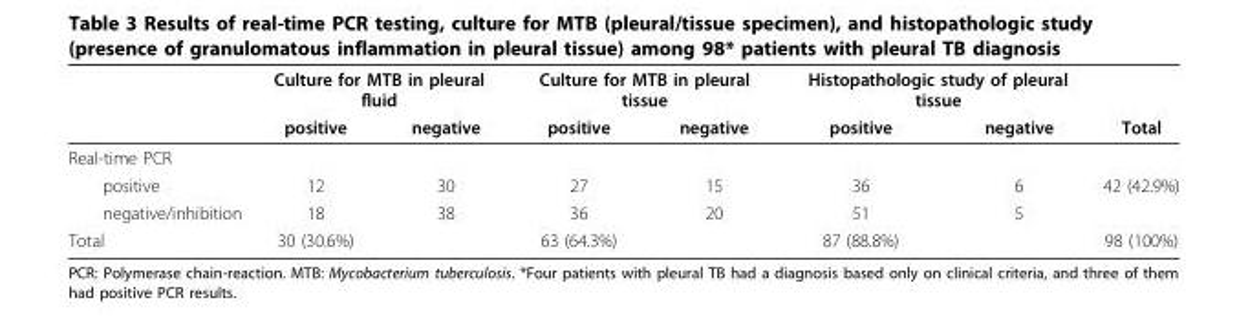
<table><thead><tr><td rowspan="2"></td><td colspan="2">Culture for MTB in pleural fluid</td><td colspan="2">Culture for MTB in pleural tissue</td><td colspan="2">Histopathologic study of pleural tissue</td><td rowspan="2">Total</td></tr><tr><td>positive</td><td>negative</td><td>positive</td><td>negative</td><td>positive</td><td>negative</td></tr></thead><tbody><tr><td colspan="8">Real-time PCR</td></tr><tr><td>positive</td><td>12</td><td>30</td><td>27</td><td>15</td><td>36</td><td>6</td><td>42 (42.9%)</td></tr><tr><td>negative/inhibition</td><td>18</td><td>38</td><td>36</td><td>20</td><td>51</td><td>5</td><td></td></tr><tr><td>Total</td><td>30 (30.6%)</td><td></td><td>63 (64.3%)</td><td></td><td>87 (88.8%)</td><td></td><td>98 (100%)</td></tr></tbody></table>